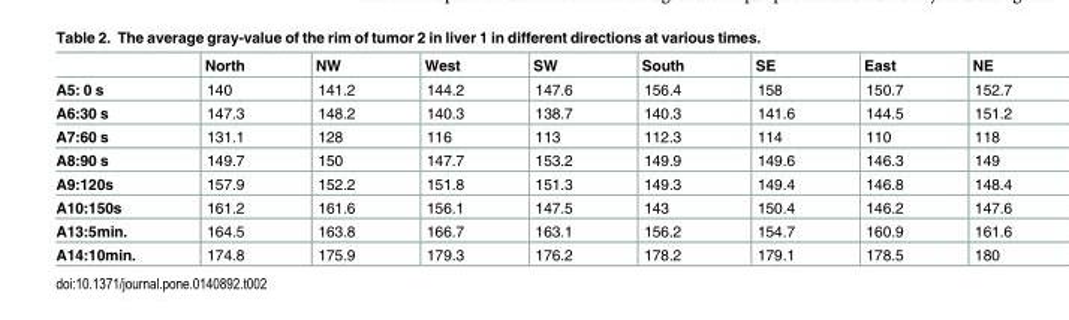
<table><thead><tr><td></td><td>North</td><td>NW</td><td>West</td><td>SW</td><td>South</td><td>SE</td><td>East</td><td>NE</td></tr></thead><tbody><tr><td>A5: 0 s</td><td>140</td><td>141.2</td><td>144.2</td><td>147.6</td><td>156.4</td><td>158</td><td>150.7</td><td>152.7</td></tr><tr><td>A6:30 s</td><td>147.3</td><td>148.2</td><td>140.3</td><td>138.7</td><td>140.3</td><td>141.6</td><td>144.5</td><td>151.2</td></tr><tr><td>A7:60 s</td><td>131.1</td><td>128</td><td>116</td><td>113</td><td>112.3</td><td>114</td><td>110</td><td>118</td></tr><tr><td>A8:90 s</td><td>149.7</td><td>150</td><td>147.7</td><td>153.2</td><td>149.9</td><td>149.6</td><td>146.3</td><td>149</td></tr><tr><td>A9:120s</td><td>157.9</td><td>152.2</td><td>151.8</td><td>151.3</td><td>149.3</td><td>149.4</td><td>146.8</td><td>148.4</td></tr><tr><td>A10:150s</td><td>161.2</td><td>161.6</td><td>156.1</td><td>147.5</td><td>143</td><td>150.4</td><td>146.2</td><td>147.6</td></tr><tr><td>A13:5min.</td><td>164.5</td><td>163.8</td><td>166.7</td><td>163.1</td><td>156.2</td><td>154.7</td><td>160.9</td><td>161.6</td></tr><tr><td>A14:10min.</td><td>174.8</td><td>175.9</td><td>179.3</td><td>176.2</td><td>178.2</td><td>179.1</td><td>178.5</td><td>180</td></tr></tbody></table>